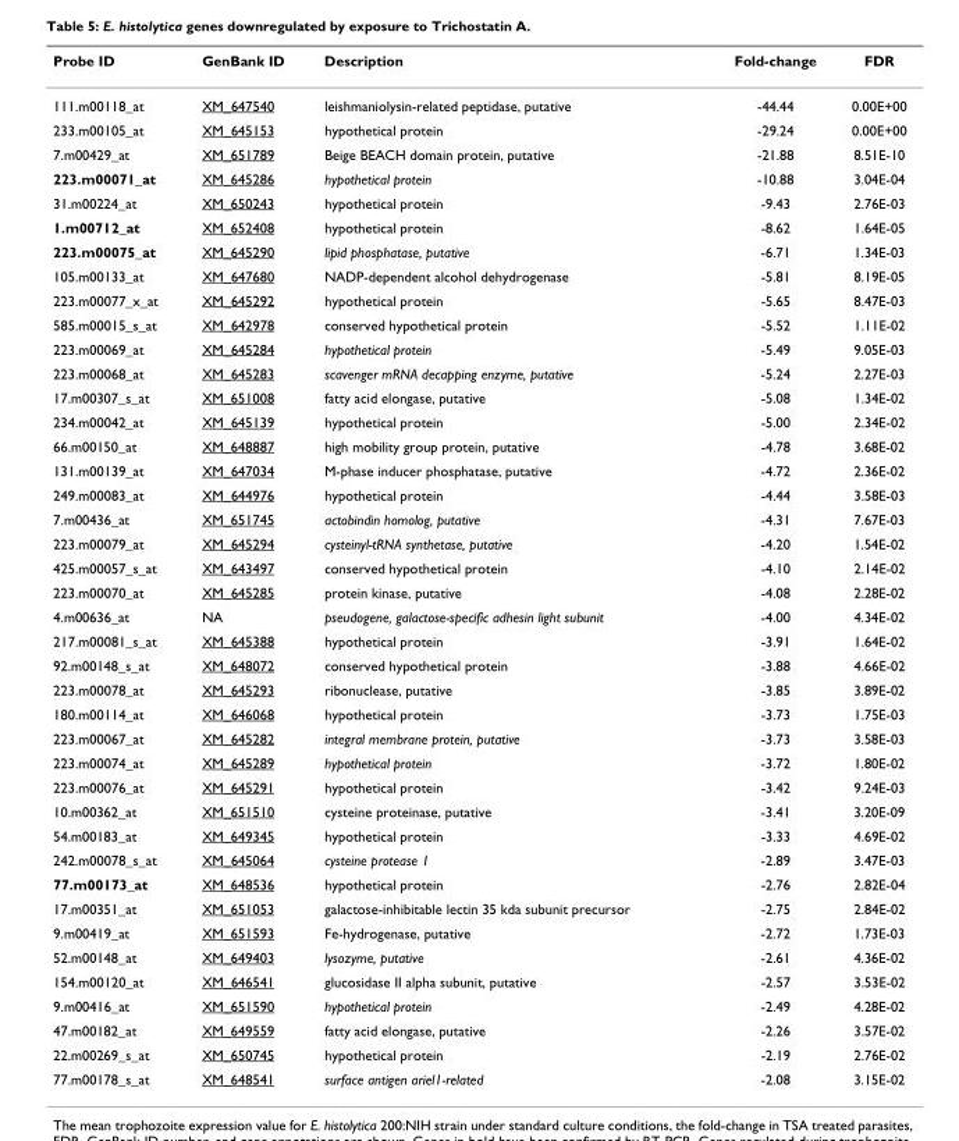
<table><thead><tr><td>Probe ID</td><td>GenBank ID</td><td>Description</td><td>Fold-change</td><td>FDR</td></tr></thead><tbody><tr><td>111.m00118_at</td><td>XM_647540</td><td>leishmaniolysin-related peptidase, putative</td><td>-44.44</td><td>0.00E+00</td></tr><tr><td>233.m00105_at</td><td>XM_645153</td><td>hypothetical protein</td><td>-29.24</td><td>0.00E+00</td></tr><tr><td>7.m00429_at</td><td>XM_651789</td><td>Beige BEACH domain protein, putative</td><td>-21.88</td><td>8.51E-10</td></tr><tr><td>223.m00071_at</td><td>XM_645286</td><td>hypothetical protein</td><td>-10.88</td><td>3.04E-04</td></tr><tr><td>31.m00224_at</td><td>XM_650243</td><td>hypothetical protein</td><td>-9.43</td><td>2.76E-03</td></tr><tr><td>1.m00712_at</td><td>XM_652408</td><td>hypothetical protein</td><td>-8.62</td><td>1.64E-05</td></tr><tr><td>223.m00075_at</td><td>XM_645290</td><td>lipid phosphatase, putative</td><td>-6.71</td><td>1.34E-03</td></tr><tr><td>105.m00133_at</td><td>XM_647680</td><td>NADP-dependent alcohol dehydrogenase</td><td>-5.81</td><td>8.19E-05</td></tr><tr><td>223.m00077_x_at</td><td>XM_645292</td><td>hypothetical protein</td><td>-5.65</td><td>8.47E-03</td></tr><tr><td>585.m00015_s_at</td><td>XM_642978</td><td>conserved hypothetical protein</td><td>-5.52</td><td>1.11E-02</td></tr><tr><td>223.m00069_at</td><td>XM_645284</td><td>hypothetical protein</td><td>-5.49</td><td>9.05E-03</td></tr><tr><td>223.m00068_at</td><td>XM_645283</td><td>scavenger mRNA decapping enzyme, putative</td><td>-5.24</td><td>2.27E-03</td></tr><tr><td>17.m00307_s_at</td><td>XM_651008</td><td>fatty acid elongase, putative</td><td>-5.08</td><td>1.34E-02</td></tr><tr><td>234.m00042_at</td><td>XM_645139</td><td>hypothetical protein</td><td>-5.00</td><td>2.34E-02</td></tr><tr><td>66.m00150_at</td><td>XM_648887</td><td>high mobility group protein, putative</td><td>-4.78</td><td>3.68E-02</td></tr><tr><td>131.m00139_at</td><td>XM_647034</td><td>M-phase inducer phosphatase, putative</td><td>-4.72</td><td>2.36E-02</td></tr><tr><td>249.m00083_at</td><td>XM_644976</td><td>hypothetical protein</td><td>-4.44</td><td>3.58E-03</td></tr><tr><td>7.m00436_at</td><td>XM_651745</td><td>actobindin homolog, putative</td><td>-4.31</td><td>7.67E-03</td></tr><tr><td>223.m00079_at</td><td>XM_645294</td><td>cysteinyl-tRNA synthetase, putative</td><td>-4.20</td><td>1.54E-02</td></tr><tr><td>425.m00057_s_at</td><td>XM_643497</td><td>conserved hypothetical protein</td><td>-4.10</td><td>2.14E-02</td></tr><tr><td>223.m00070_at</td><td>XM_645285</td><td>protein kinase, putative</td><td>-4.08</td><td>2.28E-02</td></tr><tr><td>4.m00636_at</td><td>NA</td><td>pseudogene, galactose-specific adhesin light subunit</td><td>-4.00</td><td>4.34E-02</td></tr><tr><td>217.m00081_s_at</td><td>XM_645388</td><td>hypothetical protein</td><td>-3.91</td><td>1.64E-02</td></tr><tr><td>92.m00148_s_at</td><td>XM_648072</td><td>conserved hypothetical protein</td><td>-3.88</td><td>4.66E-02</td></tr><tr><td>223.m00078_at</td><td>XM_645293</td><td>ribonuclease, putative</td><td>-3.85</td><td>3.89E-02</td></tr><tr><td>180.m00114_at</td><td>XM_646068</td><td>hypothetical protein</td><td>-3.73</td><td>1.75E-03</td></tr><tr><td>223.m00067_at</td><td>XM_645282</td><td>integral membrane protein, putative</td><td>-3.73</td><td>3.58E-03</td></tr><tr><td>223.m00074_at</td><td>XM_645289</td><td>hypothetical protein</td><td>-3.72</td><td>1.80E-02</td></tr><tr><td>223.m00076_at</td><td>XM_645291</td><td>hypothetical protein</td><td>-3.42</td><td>9.24E-03</td></tr><tr><td>10.m00362_at</td><td>XM_651510</td><td>cysteine proteinase, putative</td><td>-3.41</td><td>3.20E-09</td></tr><tr><td>54.m00183_at</td><td>XM_649345</td><td>hypothetical protein</td><td>-3.33</td><td>4.69E-02</td></tr><tr><td>242.m00078_s_at</td><td>XM_645064</td><td>cysteine protease 1</td><td>-2.89</td><td>3.47E-03</td></tr><tr><td>77.m00173_at</td><td>XM_648536</td><td>hypothetical protein</td><td>-2.76</td><td>2.82E-04</td></tr><tr><td>17.m00351_at</td><td>XM_651053</td><td>galactose-inhibitable lectin 35 kda subunit precursor</td><td>-2.75</td><td>2.84E-02</td></tr><tr><td>9.m00419_at</td><td>XM_651593</td><td>Fe-hydrogenase, putative</td><td>-2.72</td><td>1.73E-03</td></tr><tr><td>52.m00148_at</td><td>XM_649403</td><td>lysozyme, putative</td><td>-2.61</td><td>4.36E-02</td></tr><tr><td>154.m00120_at</td><td>XM_646541</td><td>glucosidase II alpha subunit, putative</td><td>-2.57</td><td>3.53E-02</td></tr><tr><td>9.m00416_at</td><td>XM_651590</td><td>hypothetical protein</td><td>-2.49</td><td>4.28E-02</td></tr><tr><td>47.m00182_at</td><td>XM_649559</td><td>fatty acid elongase, putative</td><td>-2.26</td><td>3.57E-02</td></tr><tr><td>22.m00269_s_at</td><td>XM_650745</td><td>hypothetical protein</td><td>-2.19</td><td>2.76E-02</td></tr><tr><td>77.m00178_s_at</td><td>XM_648541</td><td>surface antigen ariel1-related</td><td>-2.08</td><td>3.15E-02</td></tr></tbody></table>